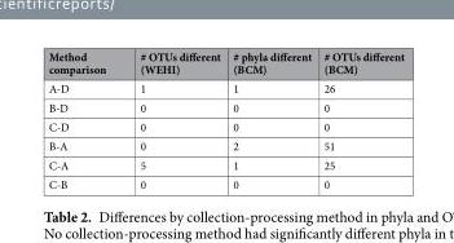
<table><thead><tr><td>Method comparison</td><td># OTUs different (WEHI)</td><td># phyla different (BCM)</td><td># OTUs different (BCM)</td></tr></thead><tbody><tr><td>A-D</td><td>1</td><td>1</td><td>26</td></tr><tr><td>B-D</td><td>0</td><td>0</td><td>0</td></tr><tr><td>C-D</td><td>0</td><td>0</td><td>0</td></tr><tr><td>B-A</td><td>0</td><td>2</td><td>51</td></tr><tr><td>C-A</td><td>5</td><td>1</td><td>25</td></tr><tr><td>C-B</td><td>0</td><td>0</td><td>0</td></tr></tbody></table>